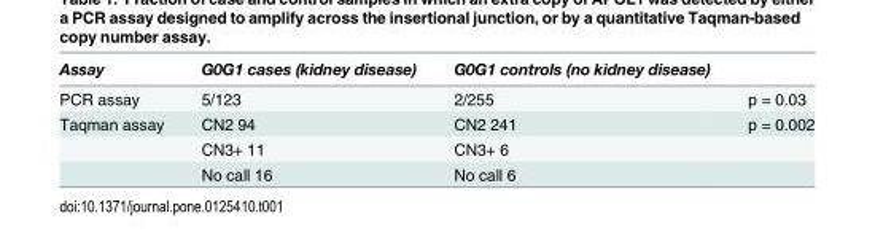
<table><thead><tr><td>Assay</td><td>G0G1 cases (kidney disease)</td><td>G0G1 controls (no kidney disease)</td><td></td></tr></thead><tbody><tr><td>PCR assay</td><td>5/123</td><td>2/255</td><td>p = 0.03</td></tr><tr><td rowspan="3">Taqman assay</td><td>CN2 94</td><td>CN2 241</td><td>p = 0.002</td></tr><tr><td>CN3+ 11</td><td>CN3+ 6</td><td></td></tr><tr><td>No call 16</td><td>No call 6</td><td></td></tr></tbody></table>